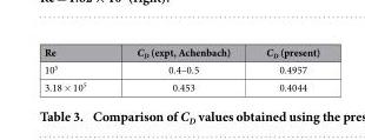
<table><thead><tr><td>Re</td><td>C<sub>D</sub> (expt, Achenbach)</td><td>C<sub>D</sub> (present)</td></tr></thead><tbody><tr><td>10<sup>5</sup></td><td>0.4–0.5</td><td>0.4957</td></tr><tr><td>3.18 × 10<sup>5</sup></td><td>0.453</td><td>0.4044</td></tr></tbody></table>